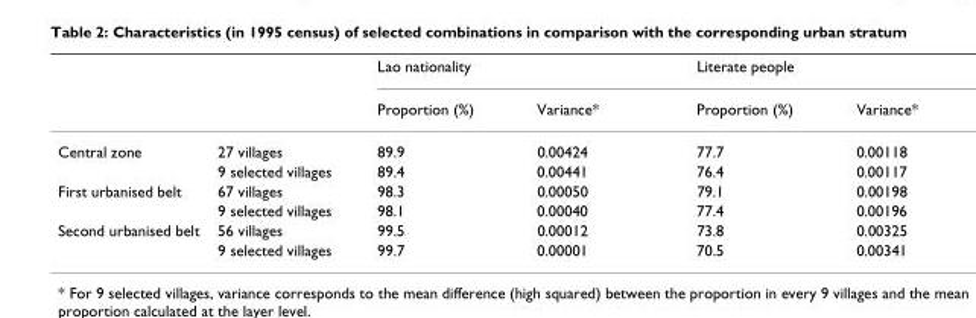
<table><thead><tr><td rowspan="2"></td><td rowspan="2"></td><td colspan="2">Lao nationality</td><td colspan="2">Literate people</td></tr><tr><td>Proportion (%)</td><td>Variance*</td><td>Proportion (%)</td><td>Variance*</td></tr></thead><tbody><tr><td rowspan="2">Central zone</td><td>27 villages</td><td>89.9</td><td>0.00424</td><td>77.7</td><td>0.00118</td></tr><tr><td>9 selected villages</td><td>89.4</td><td>0.00441</td><td>76.4</td><td>0.00117</td></tr><tr><td rowspan="2">First urbanised belt</td><td>67 villages</td><td>98.3</td><td>0.00050</td><td>79.1</td><td>0.00198</td></tr><tr><td>9 selected villages</td><td>98.1</td><td>0.00040</td><td>77.4</td><td>0.00196</td></tr><tr><td rowspan="2">Second urbanised belt</td><td>56 villages</td><td>99.5</td><td>0.00012</td><td>73.8</td><td>0.00325</td></tr><tr><td>9 selected villages</td><td>99.7</td><td>0.00001</td><td>70.5</td><td>0.00341</td></tr></tbody></table>